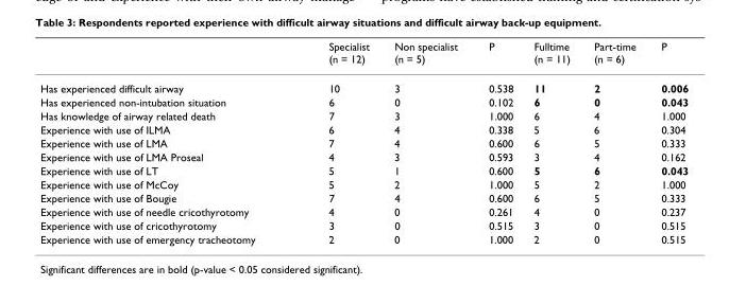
<table><thead><tr><td></td><td>Specialist (n = 12)</td><td>Non specialist (n = 5)</td><td>P</td><td>Fulltime (n = 11)</td><td>Part-time (n = 6)</td><td>P</td></tr></thead><tbody><tr><td>Has experienced difficult airway</td><td>10</td><td>3</td><td>0.538</td><td>11</td><td>2</td><td>0.006</td></tr><tr><td>Has experienced non-intubation situation</td><td>6</td><td>0</td><td>0.102</td><td>6</td><td>0</td><td>0.043</td></tr><tr><td>Has knowledge of airway related death</td><td>7</td><td>3</td><td>1.000</td><td>6</td><td>4</td><td>1.000</td></tr><tr><td>Experience with use of ILMA</td><td>6</td><td>4</td><td>0.338</td><td>5</td><td>6</td><td>0.304</td></tr><tr><td>Experience with use of LMA</td><td>7</td><td>4</td><td>0.600</td><td>6</td><td>5</td><td>0.333</td></tr><tr><td>Experience with use of LMA Proseal</td><td>4</td><td>3</td><td>0.593</td><td>3</td><td>4</td><td>0.162</td></tr><tr><td>Experience with use of LT</td><td>5</td><td>1</td><td>0.600</td><td>5</td><td>6</td><td>0.043</td></tr><tr><td>Experience with use of McCoy</td><td>5</td><td>2</td><td>1.000</td><td>5</td><td>2</td><td>1.000</td></tr><tr><td>Experience with use of Bougie</td><td>7</td><td>4</td><td>0.600</td><td>6</td><td>5</td><td>0.333</td></tr><tr><td>Experience with use of needle cricothyrotomy</td><td>4</td><td>0</td><td>0.261</td><td>4</td><td>0</td><td>0.237</td></tr><tr><td>Experience with use of cricothyrotomy</td><td>3</td><td>0</td><td>0.515</td><td>3</td><td>0</td><td>0.515</td></tr><tr><td>Experience with use of emergency tracheotomy</td><td>2</td><td>0</td><td>1.000</td><td>2</td><td>0</td><td>0.515</td></tr></tbody></table>